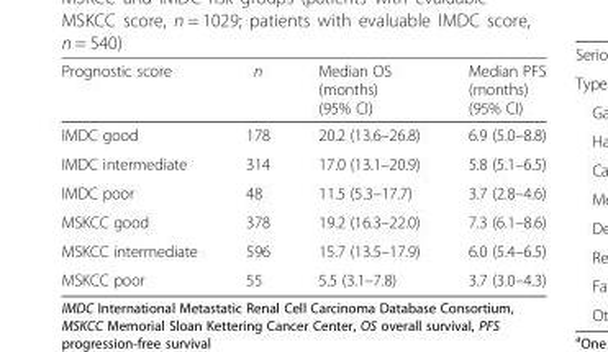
<table><thead><tr><td>Prognostic score</td><td>n</td><td>Median OS (months) (95% CI)</td><td>Median PFS (months) (95% CI)</td></tr></thead><tbody><tr><td>IMDC good</td><td>178</td><td>20.2 (13.6–26.8)</td><td>6.9 (5.0–8.8)</td></tr><tr><td>IMDC intermediate</td><td>314</td><td>17.0 (13.1–20.9)</td><td>5.8 (5.1–6.5)</td></tr><tr><td>IMDC poor</td><td>48</td><td>11.5 (5.3–17.7)</td><td>3.7 (2.8–4.6)</td></tr><tr><td>MSKCC good</td><td>378</td><td>19.2 (16.3–22.0)</td><td>7.3 (6.1–8.6)</td></tr><tr><td>MSKCC intermediate</td><td>596</td><td>15.7 (13.5–17.9)</td><td>6.0 (5.4–6.5)</td></tr><tr><td>MSKCC poor</td><td>55</td><td>5.5 (3.1–7.8)</td><td>3.7 (3.0–4.3)</td></tr></tbody></table>